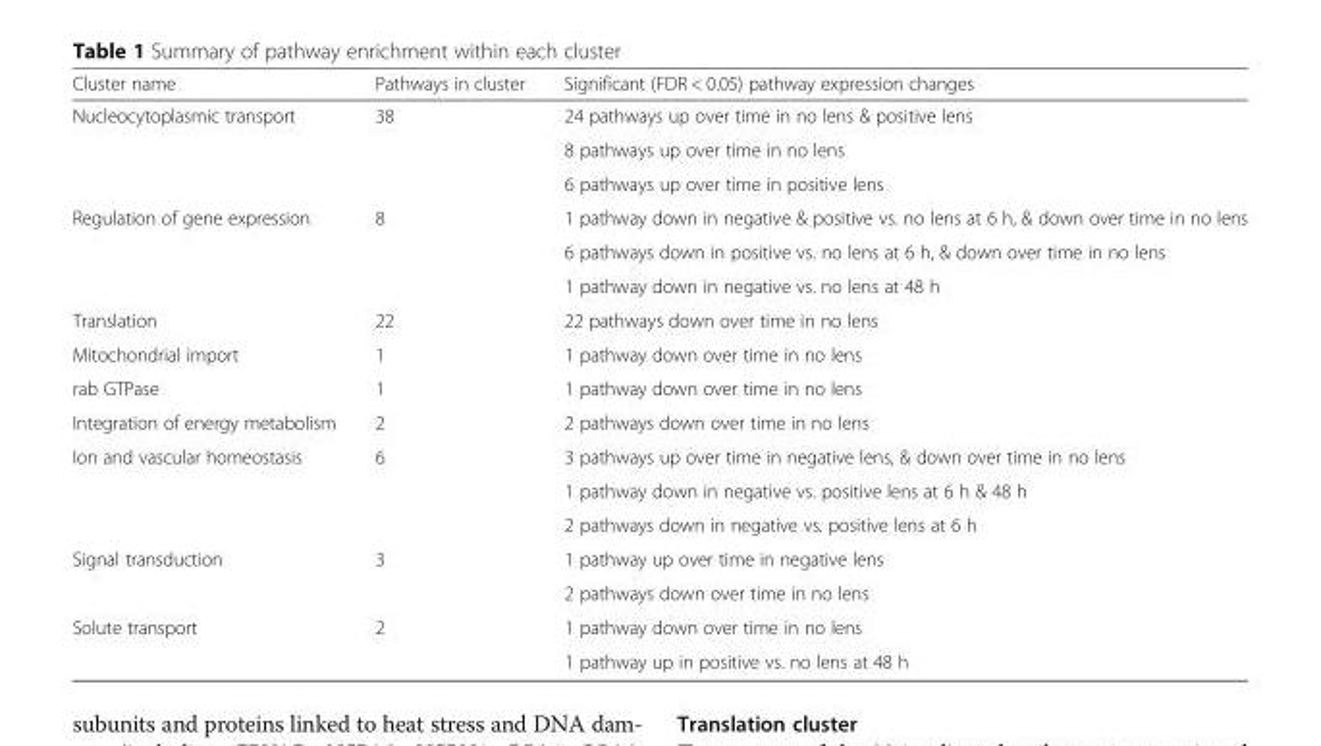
<table><thead><tr><td>Cluster name</td><td>Pathways in cluster</td><td>Significant (FDR &lt; 0.05) pathway expression changes</td></tr></thead><tbody><tr><td rowspan="3">Nucleocytoplasmic transport</td><td rowspan="3">38</td><td>24 pathways up over time in no lens &amp; positive lens</td></tr><tr><td>8 pathways up over time in no lens</td></tr><tr><td>6 pathways up over time in positive lens</td></tr><tr><td rowspan="3">Regulation of gene expression</td><td rowspan="3">8</td><td>1 pathway down in negative &amp; positive vs. no lens at 6 h, &amp; down over time in no lens</td></tr><tr><td>6 pathways down in positive vs. no lens at 6 h, &amp; down over time in no lens</td></tr><tr><td>1 pathway down in negative vs. no lens at 48 h</td></tr><tr><td>Translation</td><td>22</td><td>22 pathways down over time in no lens</td></tr><tr><td>Mitochondrial import</td><td>1</td><td>1 pathway down over time in no lens</td></tr><tr><td>rab GTPase</td><td>1</td><td>1 pathway down over time in no lens</td></tr><tr><td>Integration of energy metabolism</td><td>2</td><td>2 pathways down over time in no lens</td></tr><tr><td rowspan="3">Ion and vascular homeostasis</td><td rowspan="3">6</td><td>3 pathways up over time in negative lens, &amp; down over time in no lens</td></tr><tr><td>1 pathway down in negative vs. positive lens at 6 h &amp; 48 h</td></tr><tr><td>2 pathways down in negative vs. positive lens at 6 h</td></tr><tr><td rowspan="2">Signal transduction</td><td rowspan="2">3</td><td>1 pathway up over time in negative lens</td></tr><tr><td>2 pathways down over time in no lens</td></tr><tr><td rowspan="2">Solute transport</td><td rowspan="2">2</td><td>1 pathway down over time in no lens</td></tr><tr><td>1 pathway up in positive vs. no lens at 48 h</td></tr></tbody></table>